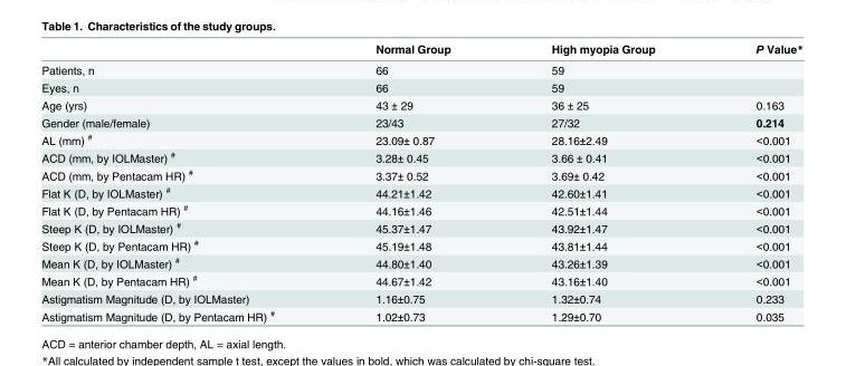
<table><thead><tr><td></td><td>Normal Group</td><td>High myopia Group</td><td>P Value*</td></tr></thead><tbody><tr><td>Patients, n</td><td>66</td><td>59</td><td></td></tr><tr><td>Eyes, n</td><td>66</td><td>59</td><td></td></tr><tr><td>Age (yrs)</td><td>43 ± 29</td><td>36 ± 25</td><td>0.163</td></tr><tr><td>Gender (male/female)</td><td>23/43</td><td>27/32</td><td>0.214</td></tr><tr><td>AL (mm) <sup>#</sup></td><td>23.09± 0.87</td><td>28.16±2.49</td><td>&lt;0.001</td></tr><tr><td>ACD (mm, by IOLMaster) <sup>#</sup></td><td>3.28± 0.45</td><td>3.66 ± 0.41</td><td>&lt;0.001</td></tr><tr><td>ACD (mm, by Pentacam HR) <sup>#</sup></td><td>3.37± 0.52</td><td>3.69± 0.42</td><td>&lt;0.001</td></tr><tr><td>Flat K (D, by IOLMaster) <sup>#</sup></td><td>44.21±1.42</td><td>42.60±1.41</td><td>&lt;0.001</td></tr><tr><td>Flat K (D, by Pentacam HR) <sup>#</sup></td><td>44.16±1.46</td><td>42.51±1.44</td><td>&lt;0.001</td></tr><tr><td>Steep K (D, by IOLMaster) <sup>#</sup></td><td>45.37±1.47</td><td>43.92±1.47</td><td>&lt;0.001</td></tr><tr><td>Steep K (D, by Pentacam HR) <sup>#</sup></td><td>45.19±1.48</td><td>43.81±1.44</td><td>&lt;0.001</td></tr><tr><td>Mean K (D, by IOLMaster) <sup>#</sup></td><td>44.80±1.40</td><td>43.26±1.39</td><td>&lt;0.001</td></tr><tr><td>Mean K (D, by Pentacam HR) <sup>#</sup></td><td>44.67±1.42</td><td>43.16±1.40</td><td>&lt;0.001</td></tr><tr><td>Astigmatism Magnitude (D, by IOLMaster)</td><td>1.16±0.75</td><td>1.32±0.74</td><td>0.233</td></tr><tr><td>Astigmatism Magnitude (D, by Pentacam HR) <sup>#</sup></td><td>1.02±0.73</td><td>1.29±0.70</td><td>0.035</td></tr></tbody></table>